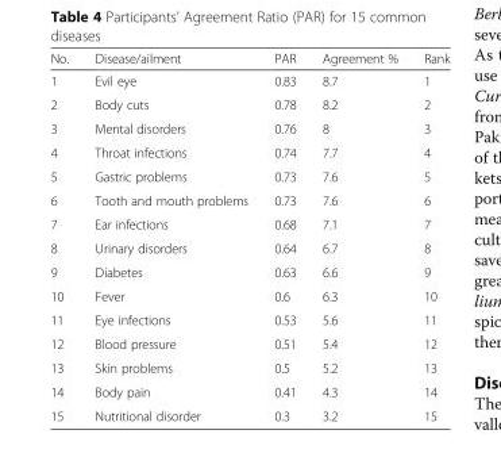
<table><thead><tr><td>No.</td><td>Disease/ailment</td><td>PAR</td><td>Agreement %</td><td>Rank</td></tr></thead><tbody><tr><td>1</td><td>Evil eye</td><td>0.83</td><td>8.7</td><td>1</td></tr><tr><td>2</td><td>Body cuts</td><td>0.78</td><td>8.2</td><td>2</td></tr><tr><td>3</td><td>Mental disorders</td><td>0.76</td><td>8</td><td>3</td></tr><tr><td>4</td><td>Throat infections</td><td>0.74</td><td>7.7</td><td>4</td></tr><tr><td>5</td><td>Gastric problems</td><td>0.73</td><td>7.6</td><td>5</td></tr><tr><td>6</td><td>Tooth and mouth problems</td><td>0.73</td><td>7.6</td><td>6</td></tr><tr><td>7</td><td>Ear infections</td><td>0.68</td><td>7.1</td><td>7</td></tr><tr><td>8</td><td>Urinary disorders</td><td>0.64</td><td>6.7</td><td>8</td></tr><tr><td>9</td><td>Diabetes</td><td>0.63</td><td>6.6</td><td>9</td></tr><tr><td>10</td><td>Fever</td><td>0.6</td><td>6.3</td><td>10</td></tr><tr><td>11</td><td>Eye infections</td><td>0.53</td><td>5.6</td><td>11</td></tr><tr><td>12</td><td>Blood pressure</td><td>0.51</td><td>5.4</td><td>12</td></tr><tr><td>13</td><td>Skin problems</td><td>0.5</td><td>5.2</td><td>13</td></tr><tr><td>14</td><td>Body pain</td><td>0.41</td><td>4.3</td><td>14</td></tr><tr><td>15</td><td>Nutritional disorder</td><td>0.3</td><td>3.2</td><td>15</td></tr></tbody></table>